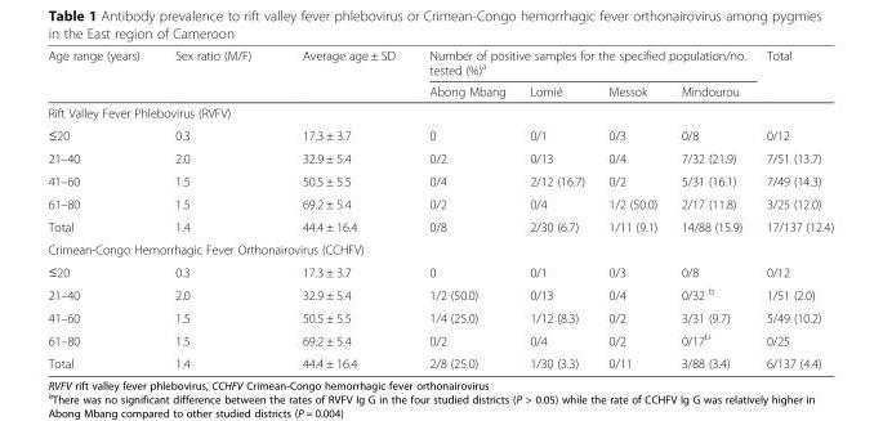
<table><thead><tr><td rowspan="2">Age range (years)</td><td rowspan="2">Sex ratio (M/F)</td><td rowspan="2">Average age ± SD</td><td colspan="4">Number of positive samples for the specified population/no. tested (%)<sup>a</sup></td><td rowspan="2">Total</td></tr><tr><td>Abong Mbang</td><td>Lomié</td><td>Messok</td><td>Mindourou</td></tr></thead><tbody><tr><td colspan="8">Rift Valley Fever Phlebovirus (RVFV)</td></tr><tr><td>≤20</td><td>0.3</td><td>17.3 ± 3.7</td><td>0</td><td>0/1</td><td>0/3</td><td>0/8</td><td>0/12</td></tr><tr><td>21–40</td><td>2.0</td><td>32.9 ± 5.4</td><td>0/2</td><td>0/13</td><td>0/4</td><td>7/32 (21.9)</td><td>7/51 (13.7)</td></tr><tr><td>41–60</td><td>1.5</td><td>50.5 ± 5.5</td><td>0/4</td><td>2/12 (16.7)</td><td>0/2</td><td>5/31 (16.1)</td><td>7/49 (14.3)</td></tr><tr><td>61–80</td><td>1.5</td><td>69.2 ± 5.4</td><td>0/2</td><td>0/4</td><td>1/2 (50.0)</td><td>2/17 (11.8)</td><td>3/25 (12.0)</td></tr><tr><td>Total</td><td>1.4</td><td>44.4 ± 16.4</td><td>0/8</td><td>2/30 (6.7)</td><td>1/11 (9.1)</td><td>14/88 (15.9)</td><td>17/137 (12.4)</td></tr><tr><td colspan="8">Crimean-Congo Hemorrhagic Fever Orthonairovirus (CCHFV)</td></tr><tr><td>≤20</td><td>0.3</td><td>17.3 ± 3.7</td><td>0</td><td>0/1</td><td>0/3</td><td>0/8</td><td>0/12</td></tr><tr><td>21–40</td><td>2.0</td><td>32.9 ± 5.4</td><td>1/2 (50.0)</td><td>0/13</td><td>0/4</td><td>0/32 <sup>b</sup></td><td>1/51 (2.0)</td></tr><tr><td>41–60</td><td>1.5</td><td>50.5 ± 5.5</td><td>1/4 (25.0)</td><td>1/12 (8.3)</td><td>0/2</td><td>3/31 (9.7)</td><td>5/49 (10.2)</td></tr><tr><td>61–80</td><td>1.5</td><td>69.2 ± 5.4</td><td>0/2</td><td>0/4</td><td>0/2</td><td>0/17<sup>b</sup></td><td>0/25</td></tr><tr><td>Total</td><td>1.4</td><td>44.4 ± 16.4</td><td>2/8 (25.0)</td><td>1/30 (3.3)</td><td>0/11</td><td>3/88 (3.4)</td><td>6/137 (4.4)</td></tr></tbody></table>